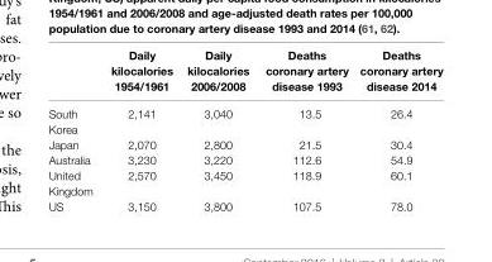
<table><thead><tr><td></td><td>Daily kilocalories 1954/1961</td><td>Daily kilocalories 2006/2008</td><td>Deaths coronary artery disease 1993</td><td>Deaths coronary artery disease 2014</td></tr></thead><tbody><tr><td>South Korea</td><td>2,141</td><td>3,040</td><td>13.5</td><td>26.4</td></tr><tr><td>Japan</td><td>2,070</td><td>2,800</td><td>21.5</td><td>30.4</td></tr><tr><td>Australia</td><td>3,230</td><td>3,220</td><td>112.6</td><td>54.9</td></tr><tr><td>United Kingdom</td><td>2,570</td><td>3,450</td><td>118.9</td><td>60.1</td></tr><tr><td>US</td><td>3,150</td><td>3,800</td><td>107.5</td><td>78.0</td></tr></tbody></table>